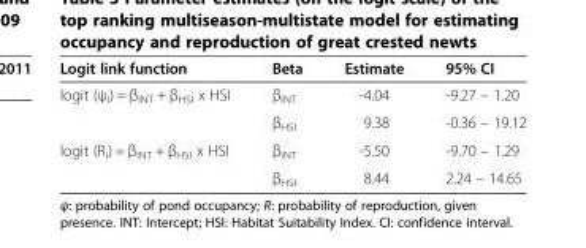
<table><thead><tr><td>Logit link function</td><td>Beta</td><td>Estimate</td><td>95% CI</td></tr></thead><tbody><tr><td rowspan="2">logit (ψ<sub>i</sub>) = β<sub>INT</sub> + β<sub>HSI</sub> x HSI</td><td>β<sub>INT</sub></td><td>-4.04</td><td>-9.27 – 1.20</td></tr><tr><td>β<sub>HSI</sub></td><td>9.38</td><td>-0.36 – 19.12</td></tr><tr><td rowspan="2">logit (R<sub>i</sub>) = β<sub>INT</sub> + β<sub>HSI</sub> x HSI</td><td>β<sub>INT</sub></td><td>-5.50</td><td>-9.70 – 1.29</td></tr><tr><td>β<sub>HSI</sub></td><td>8.44</td><td>2.24 – 14.65</td></tr></tbody></table>